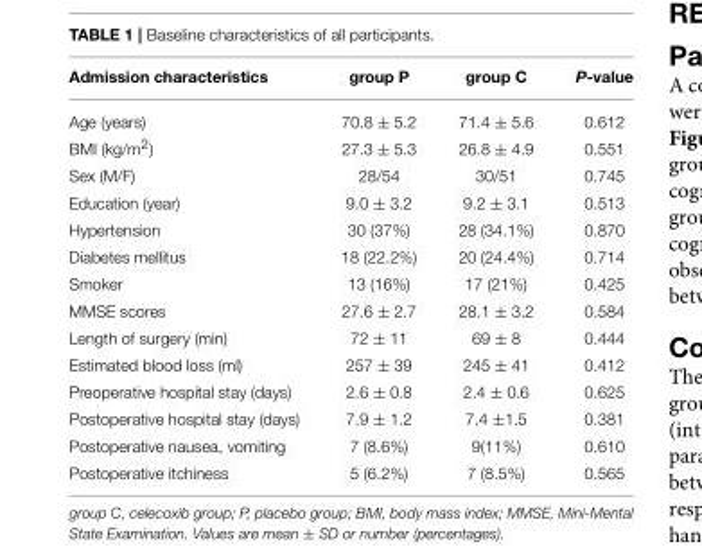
<table><thead><tr><td>Admission characteristics</td><td>group P</td><td>group C</td><td>P-value</td></tr></thead><tbody><tr><td>Age (years)</td><td>70.8 ± 5.2</td><td>71.4 ± 5.6</td><td>0.612</td></tr><tr><td>BMI (kg/m<sup>2</sup>)</td><td>27.3 ± 5.3</td><td>26.8 ± 4.9</td><td>0.551</td></tr><tr><td>Sex (M/F)</td><td>28/54</td><td>30/51</td><td>0.745</td></tr><tr><td>Education (year)</td><td>9.0 ± 3.2</td><td>9.2 ± 3.1</td><td>0.513</td></tr><tr><td>Hypertension</td><td>30 (37%)</td><td>28 (34.1%)</td><td>0.870</td></tr><tr><td>Diabetes mellitus</td><td>18 (22.2%)</td><td>20 (24.4%)</td><td>0.714</td></tr><tr><td>Smoker</td><td>13 (16%)</td><td>17 (21%)</td><td>0.425</td></tr><tr><td>MMSE scores</td><td>27.6 ± 2.7</td><td>28.1 ± 3.2</td><td>0.584</td></tr><tr><td>Length of surgery (min)</td><td>72 ± 11</td><td>69 ± 8</td><td>0.444</td></tr><tr><td>Estimated blood loss (ml)</td><td>257 ± 39</td><td>245 ± 41</td><td>0.412</td></tr><tr><td>Preoperative hospital stay (days)</td><td>2.6 ± 0.8</td><td>2.4 ± 0.6</td><td>0.625</td></tr><tr><td>Postoperative hospital stay (days)</td><td>7.9 ± 1.2</td><td>7.4 ±1.5</td><td>0.381</td></tr><tr><td>Postoperative nausea, vomiting</td><td>7 (8.6%)</td><td>9(11%)</td><td>0.610</td></tr><tr><td>Postoperative itchiness</td><td>5 (6.2%)</td><td>7 (8.5%)</td><td>0.565</td></tr></tbody></table>